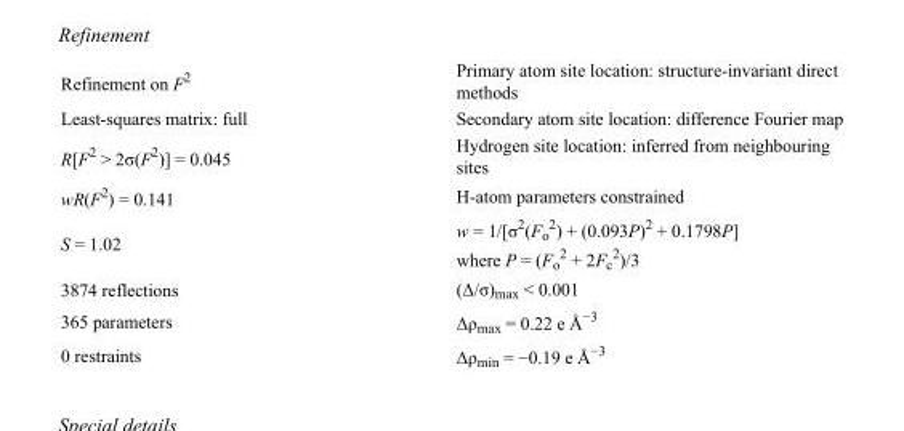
<table><tbody><tr><td>Refinement on F<sup>2</sup></td><td>Primary atom site location: structure-invariant direct methods</td></tr><tr><td>Least-squares matrix: full</td><td>Secondary atom site location: difference Fourier map</td></tr><tr><td>R[F<sup>2</sup> &gt; 2σ(F<sup>2</sup>)] = 0.045</td><td>Hydrogen site location: inferred from neighbouring sites</td></tr><tr><td>wR(F<sup>2</sup>) = 0.141</td><td>H-atom parameters constrained</td></tr><tr><td>S = 1.02</td><td>w = 1/[σ<sup>2</sup>(F<sub>o</sub> <sup>2</sup>) + (0.093P)<sup>2</sup> + 0.1798P] where P = (F<sub>o</sub> <sup>2</sup> + 2F<sub>c</sub> <sup>2</sup>)/3</td></tr><tr><td>3874 reflections</td><td>(Δ/σ)<sub>max</sub> &lt; 0.001</td></tr><tr><td>365 parameters</td><td>Δρ<sub>max</sub> = 0.22 e Å<sup>−3</sup></td></tr><tr><td>0 restraints</td><td>Δρ<sub>min</sub> = −0.19 e Å<sup>−3</sup></td></tr></tbody></table>